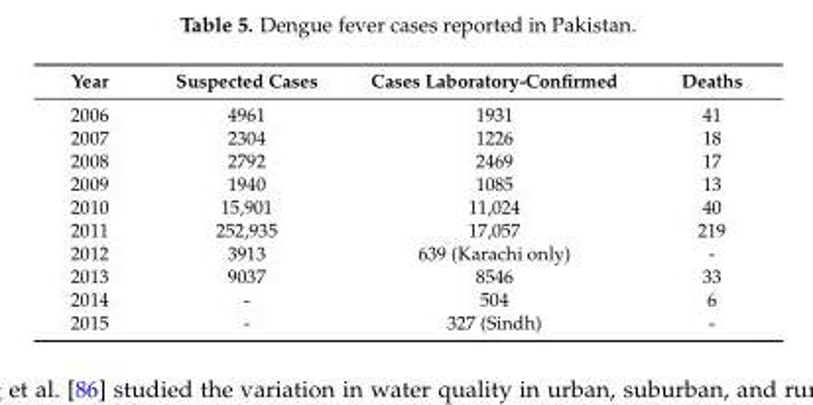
<table><thead><tr><td>Year</td><td>Suspected Cases</td><td>Cases Laboratory-Confirmed</td><td>Deaths</td></tr></thead><tbody><tr><td>2006</td><td>4961</td><td>1931</td><td>41</td></tr><tr><td>2007</td><td>2304</td><td>1226</td><td>18</td></tr><tr><td>2008</td><td>2792</td><td>2469</td><td>17</td></tr><tr><td>2009</td><td>1940</td><td>1085</td><td>13</td></tr><tr><td>2010</td><td>15,901</td><td>11,024</td><td>40</td></tr><tr><td>2011</td><td>252,935</td><td>17,057</td><td>219</td></tr><tr><td>2012</td><td>3913</td><td>639 (Karachi only)</td><td>-</td></tr><tr><td>2013</td><td>9037</td><td>8546</td><td>33</td></tr><tr><td>2014</td><td>-</td><td>504</td><td>6</td></tr><tr><td>2015</td><td>-</td><td>327 (Sindh)</td><td>-</td></tr></tbody></table>